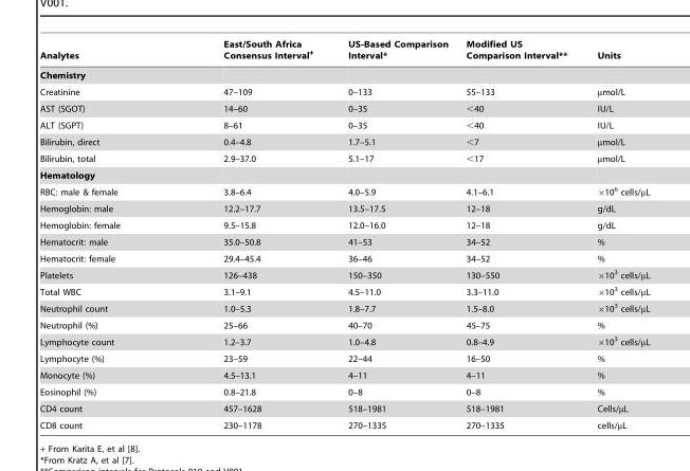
<table><thead><tr><td>Analytes</td><td>East/South Africa Consensus Interval+</td><td>US-Based Comparison Interval*</td><td>Modified US Comparison Interval**</td><td>Units</td></tr></thead><tbody><tr><td colspan="5">Chemistry</td></tr><tr><td>Creatinine</td><td>47–109</td><td>0–133</td><td>55–133</td><td>µmol/L</td></tr><tr><td>AST (SGOT)</td><td>14–60</td><td>0–35</td><td>&lt;40</td><td>IU/L</td></tr><tr><td>ALT (SGPT)</td><td>8–61</td><td>0–35</td><td>&lt;40</td><td>IU/L</td></tr><tr><td>Bilirubin, direct</td><td>0.4–4.8</td><td>1.7–5.1</td><td>&lt;7</td><td>µmol/L</td></tr><tr><td>Bilirubin, total</td><td>2.9–37.0</td><td>5.1–17</td><td>&lt;17</td><td>µmol/L</td></tr><tr><td colspan="5">Hematology</td></tr><tr><td>RBC: male &amp; female</td><td>3.8–6.4</td><td>4.0–5.9</td><td>4.1–6.1</td><td>×10<sup>6</sup> cells/µL</td></tr><tr><td>Hemoglobin: male</td><td>12.2–17.7</td><td>13.5–17.5</td><td>12–18</td><td>g/dL</td></tr><tr><td>Hemoglobin: female</td><td>9.5–15.8</td><td>12.0–16.0</td><td>12–18</td><td>g/dL</td></tr><tr><td>Hematocrit: male</td><td>35.0–50.8</td><td>41–53</td><td>34–52</td><td>%</td></tr><tr><td>Hematocrit: female</td><td>29.4–45.4</td><td>36–46</td><td>34–52</td><td>%</td></tr><tr><td>Platelets</td><td>126–438</td><td>150–350</td><td>130–550</td><td>×10<sup>3</sup> cells/µL</td></tr><tr><td>Total WBC</td><td>3.1–9.1</td><td>4.5–11.0</td><td>3.3–11.0</td><td>×10<sup>3</sup> cells/µL</td></tr><tr><td>Neutrophil count</td><td>1.0–5.3</td><td>1.8–7.7</td><td>1.5–8.0</td><td>×10<sup>3</sup> cells/µL</td></tr><tr><td>Neutrophil (%)</td><td>25–66</td><td>40–70</td><td>45–75</td><td>%</td></tr><tr><td>Lymphocyte count</td><td>1.2–3.7</td><td>1.0–4.8</td><td>0.8–4.9</td><td>×10<sup>3</sup> cells/µL</td></tr><tr><td>Lymphocyte (%)</td><td>23–59</td><td>22–44</td><td>16–50</td><td>%</td></tr><tr><td>Monocyte (%)</td><td>4.5–13.1</td><td>4–11</td><td>4–11</td><td>%</td></tr><tr><td>Eosinophil (%)</td><td>0.8–21.8</td><td>0–8</td><td>0–8</td><td>%</td></tr><tr><td>CD4 count</td><td>457–1628</td><td>518–1981</td><td>518–1981</td><td>Cells/µL</td></tr><tr><td>CD8 count</td><td>230–1178</td><td>270–1335</td><td>270–1335</td><td>cells/µL</td></tr></tbody></table>